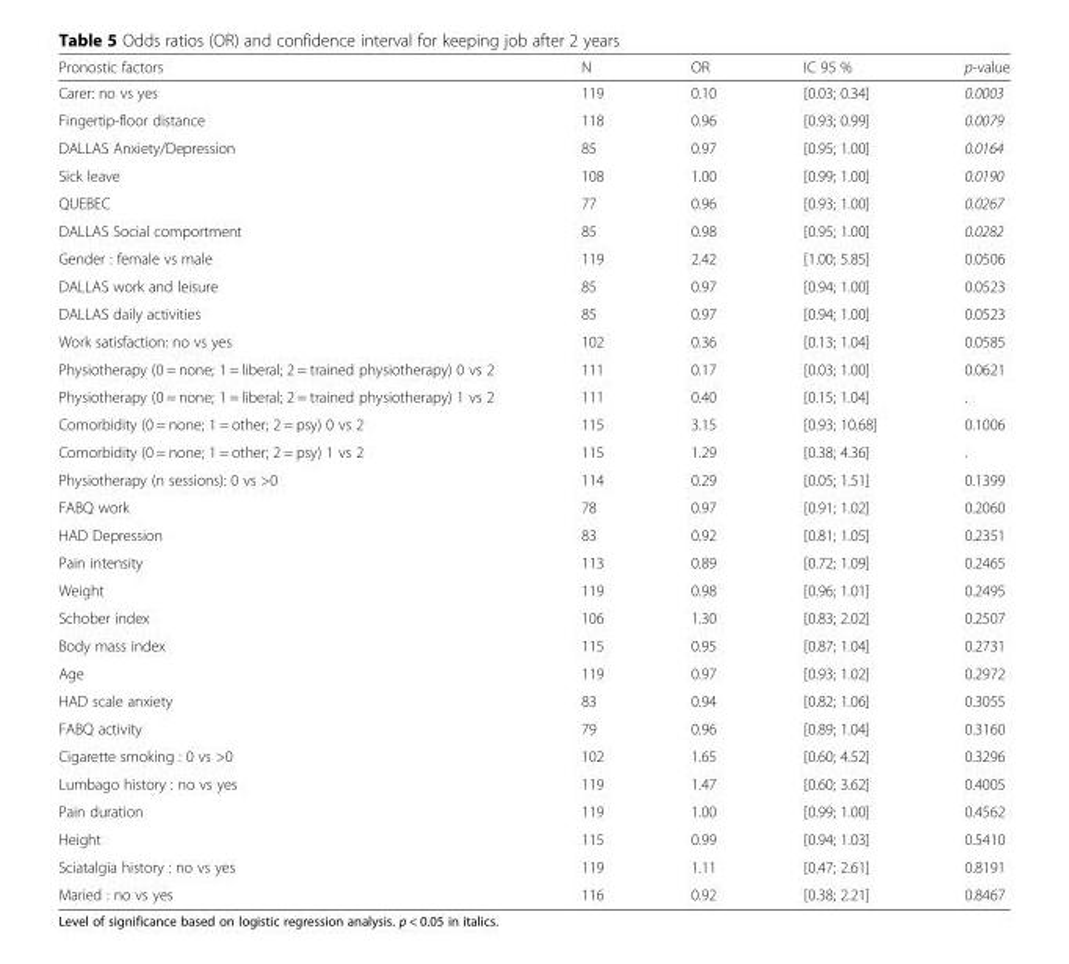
<table><thead><tr><td>Pronostic factors</td><td>N</td><td>OR</td><td>IC 95 %</td><td>p-value</td></tr></thead><tbody><tr><td>Carer: no vs yes</td><td>119</td><td>0.10</td><td>[0.03; 0.34]</td><td>0.0003</td></tr><tr><td>Fingertip-floor distance</td><td>118</td><td>0.96</td><td>[0.93; 0.99]</td><td>0.0079</td></tr><tr><td>DALLAS Anxiety/Depression</td><td>85</td><td>0.97</td><td>[0.95; 1.00]</td><td>0.0164</td></tr><tr><td>Sick leave</td><td>108</td><td>1.00</td><td>[0.99; 1.00]</td><td>0.0190</td></tr><tr><td>QUEBEC</td><td>77</td><td>0.96</td><td>[0.93; 1.00]</td><td>0.0267</td></tr><tr><td>DALLAS Social comportment</td><td>85</td><td>0.98</td><td>[0.95; 1.00]</td><td>0.0282</td></tr><tr><td>Gender : female vs male</td><td>119</td><td>2.42</td><td>[1.00; 5.85]</td><td>0.0506</td></tr><tr><td>DALLAS work and leisure</td><td>85</td><td>0.97</td><td>[0.94; 1.00]</td><td>0.0523</td></tr><tr><td>DALLAS daily activities</td><td>85</td><td>0.97</td><td>[0.94; 1.00]</td><td>0.0523</td></tr><tr><td>Work satisfaction: no vs yes</td><td>102</td><td>0.36</td><td>[0.13; 1.04]</td><td>0.0585</td></tr><tr><td>Physiotherapy (0 = none; 1 = liberal; 2 = trained physiotherapy) 0 vs 2</td><td>111</td><td>0.17</td><td>[0.03; 1.00]</td><td>0.0621</td></tr><tr><td>Physiotherapy (0 = none; 1 = liberal; 2 = trained physiotherapy) 1 vs 2</td><td>111</td><td>0.40</td><td>[0.15; 1.04]</td><td>.</td></tr><tr><td>Comorbidity (0 = none; 1 = other; 2 = psy) 0 vs 2</td><td>115</td><td>3.15</td><td>[0.93; 10.68]</td><td>0.1006</td></tr><tr><td>Comorbidity (0 = none; 1 = other; 2 = psy) 1 vs 2</td><td>115</td><td>1.29</td><td>[0.38; 4.36]</td><td>.</td></tr><tr><td>Physiotherapy (n sessions): 0 vs &gt;0</td><td>114</td><td>0.29</td><td>[0.05; 1.51]</td><td>0.1399</td></tr><tr><td>FABQ work</td><td>78</td><td>0.97</td><td>[0.91; 1.02]</td><td>0.2060</td></tr><tr><td>HAD Depression</td><td>83</td><td>0.92</td><td>[0.81; 1.05]</td><td>0.2351</td></tr><tr><td>Pain intensity</td><td>113</td><td>0.89</td><td>[0.72; 1.09]</td><td>0.2465</td></tr><tr><td>Weight</td><td>119</td><td>0.98</td><td>[0.96; 1.01]</td><td>0.2495</td></tr><tr><td>Schober index</td><td>106</td><td>1.30</td><td>[0.83; 2.02]</td><td>0.2507</td></tr><tr><td>Body mass index</td><td>115</td><td>0.95</td><td>[0.87; 1.04]</td><td>0.2731</td></tr><tr><td>Age</td><td>119</td><td>0.97</td><td>[0.93; 1.02]</td><td>0.2972</td></tr><tr><td>HAD scale anxiety</td><td>83</td><td>0.94</td><td>[0.82; 1.06]</td><td>0.3055</td></tr><tr><td>FABQ activity</td><td>79</td><td>0.96</td><td>[0.89; 1.04]</td><td>0.3160</td></tr><tr><td>Cigarette smoking : 0 vs &gt;0</td><td>102</td><td>1.65</td><td>[0.60; 4.52]</td><td>0.3296</td></tr><tr><td>Lumbago history : no vs yes</td><td>119</td><td>1.47</td><td>[0.60; 3.62]</td><td>0.4005</td></tr><tr><td>Pain duration</td><td>119</td><td>1.00</td><td>[0.99; 1.00]</td><td>0.4562</td></tr><tr><td>Height</td><td>115</td><td>0.99</td><td>[0.94; 1.03]</td><td>0.5410</td></tr><tr><td>Sciatalgia history : no vs yes</td><td>119</td><td>1.11</td><td>[0.47; 2.61]</td><td>0.8191</td></tr><tr><td>Maried : no vs yes</td><td>116</td><td>0.92</td><td>[0.38; 2.21]</td><td>0.8467</td></tr></tbody></table>